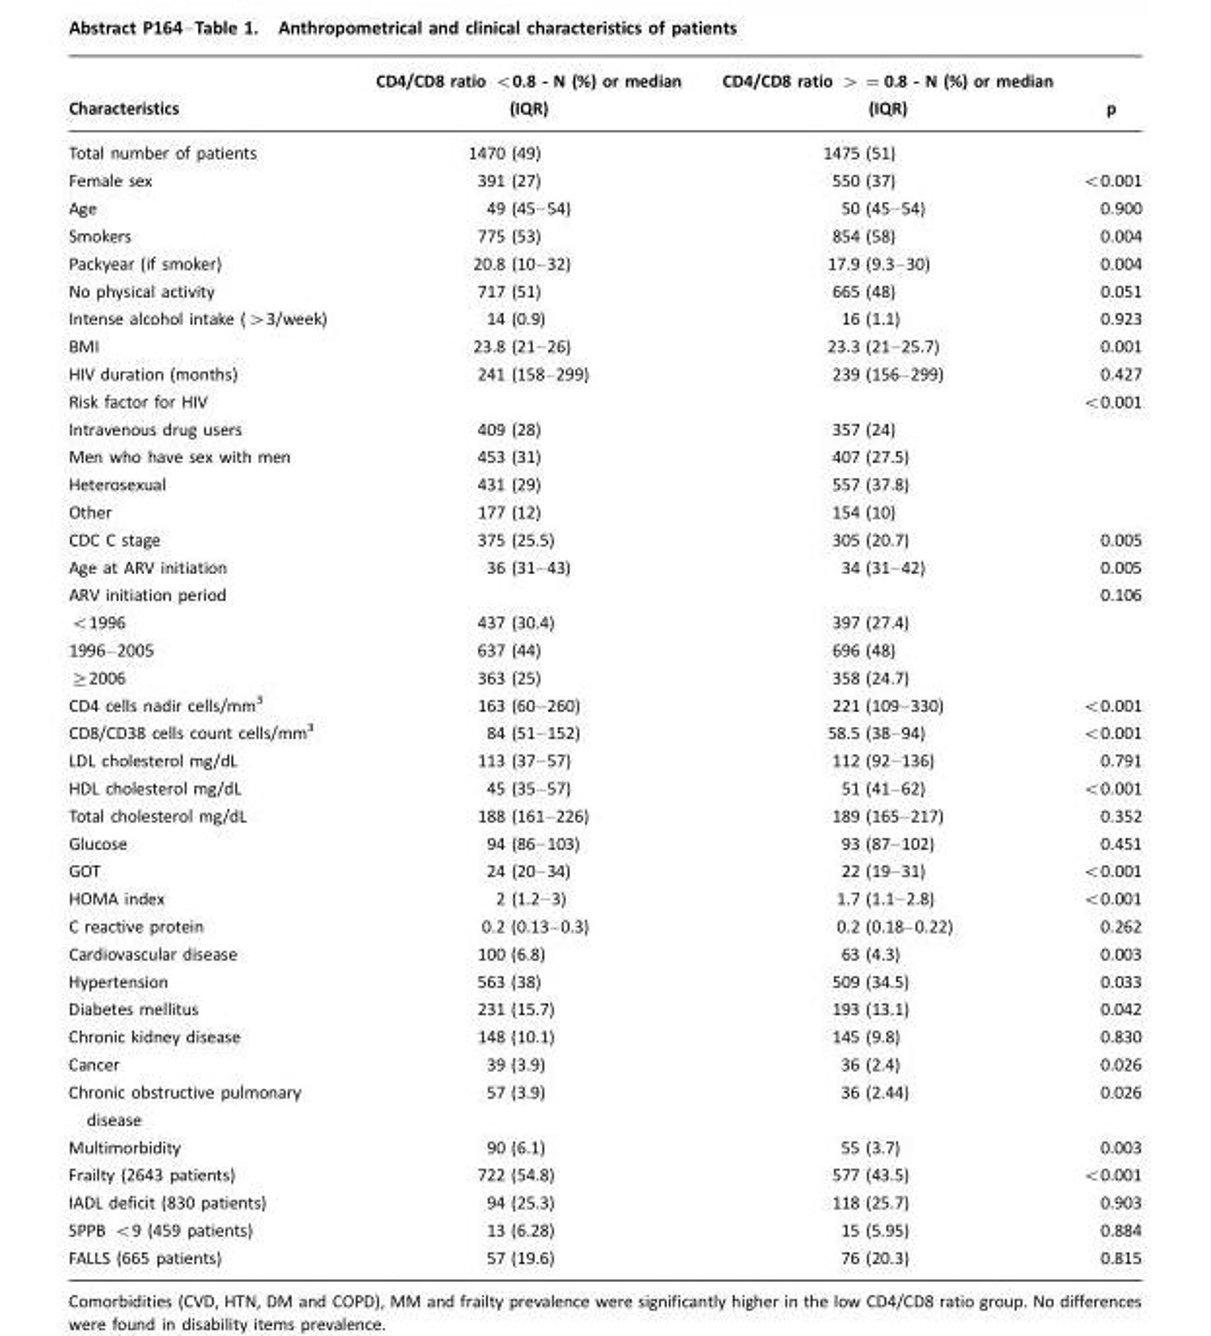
<table><thead><tr><td>Characteristics</td><td>CD4/CD8 ratio &lt;0.8 - N (%) or median (IQR)</td><td>CD4/CD8 ratio &gt; =0.8 - N (%) or median (IQR)</td><td>p</td></tr></thead><tbody><tr><td>Total number of patients</td><td>1470 (49)</td><td>1475 (51)</td><td></td></tr><tr><td>Female sex</td><td>391 (27)</td><td>550 (37)</td><td>&lt;0.001</td></tr><tr><td>Age</td><td>49 (45–54)</td><td>50 (45–54)</td><td>0.900</td></tr><tr><td>Smokers</td><td>775 (53)</td><td>854 (58)</td><td>0.004</td></tr><tr><td>Packyear (if smoker)</td><td>20.8 (10–32)</td><td>17.9 (9.3–30)</td><td>0.004</td></tr><tr><td>No physical activity</td><td>717 (51)</td><td>665 (48)</td><td>0.051</td></tr><tr><td>Intense alcohol intake (&gt;3/week)</td><td>14 (0.9)</td><td>16 (1.1)</td><td>0.923</td></tr><tr><td>BMI</td><td>23.8 (21–26)</td><td>23.3 (21–25.7)</td><td>0.001</td></tr><tr><td>HIV duration (months)</td><td>241 (158–299)</td><td>239 (156–299)</td><td>0.427</td></tr><tr><td>Risk factor for HIV</td><td></td><td></td><td>&lt;0.001</td></tr><tr><td>Intravenous drug users</td><td>409 (28)</td><td>357 (24)</td><td></td></tr><tr><td>Men who have sex with men</td><td>453 (31)</td><td>407 (27.5)</td><td></td></tr><tr><td>Heterosexual</td><td>431 (29)</td><td>557 (37.8)</td><td></td></tr><tr><td>Other</td><td>177 (12)</td><td>154 (10)</td><td></td></tr><tr><td>CDC C stage</td><td>375 (25.5)</td><td>305 (20.7)</td><td>0.005</td></tr><tr><td>Age at ARV initiation</td><td>36 (31–43)</td><td>34 (31–42)</td><td>0.005</td></tr><tr><td>ARV initiation period</td><td></td><td></td><td>0.106</td></tr><tr><td>&lt;1996</td><td>437 (30.4)</td><td>397 (27.4)</td><td></td></tr><tr><td>1996–2005</td><td>637 (44)</td><td>696 (48)</td><td></td></tr><tr><td>≥2006</td><td>363 (25)</td><td>358 (24.7)</td><td></td></tr><tr><td>CD4 cells nadir cells/mm3</td><td>163 (60–260)</td><td>221 (109–330)</td><td>&lt;0.001</td></tr><tr><td>CD8/CD38 cells count cells/mm3</td><td>84 (51–152)</td><td>58.5 (38–94)</td><td>&lt;0.001</td></tr><tr><td>LDL cholesterol mg/dL</td><td>113 (37–57)</td><td>112 (92–136)</td><td>0.791</td></tr><tr><td>HDL cholesterol mg/dL</td><td>45 (35–57)</td><td>51 (41–62)</td><td>&lt;0.001</td></tr><tr><td>Total cholesterol mg/dL</td><td>188 (161–226)</td><td>189 (165–217)</td><td>0.352</td></tr><tr><td>Glucose</td><td>94 (86–103)</td><td>93 (87–102)</td><td>0.451</td></tr><tr><td>GOT</td><td>24 (20–34)</td><td>22 (19–31)</td><td>&lt;0.001</td></tr><tr><td>HOMA index</td><td>2 (1.2–3)</td><td>1.7 (1.1–2.8)</td><td>&lt;0.001</td></tr><tr><td>C reactive protein</td><td>0.2 (0.13–0.3)</td><td>0.2 (0.18–0.22)</td><td>0.262</td></tr><tr><td>Cardiovascular disease</td><td>100 (6.8)</td><td>63 (4.3)</td><td>0.003</td></tr><tr><td>Hypertension</td><td>563 (38)</td><td>509 (34.5)</td><td>0.033</td></tr><tr><td>Diabetes mellitus</td><td>231 (15.7)</td><td>193 (13.1)</td><td>0.042</td></tr><tr><td>Chronic kidney disease</td><td>148 (10.1)</td><td>145 (9.8)</td><td>0.830</td></tr><tr><td>Cancer</td><td>39 (3.9)</td><td>36 (2.4)</td><td>0.026</td></tr><tr><td>Chronic obstructive pulmonary disease</td><td>57 (3.9)</td><td>36 (2.44)</td><td>0.026</td></tr><tr><td>Multimorbidity</td><td>90 (6.1)</td><td>55 (3.7)</td><td>0.003</td></tr><tr><td>Frailty (2643 patients)</td><td>722 (54.8)</td><td>577 (43.5)</td><td>&lt;0.001</td></tr><tr><td>IADL deficit (830 patients)</td><td>94 (25.3)</td><td>118 (25.7)</td><td>0.903</td></tr><tr><td>SPPB &lt;9 (459 patients)</td><td>13 (6.28)</td><td>15 (5.95)</td><td>0.884</td></tr><tr><td>FALLS (665 patients)</td><td>57 (19.6)</td><td>76 (20.3)</td><td>0.815</td></tr></tbody></table>